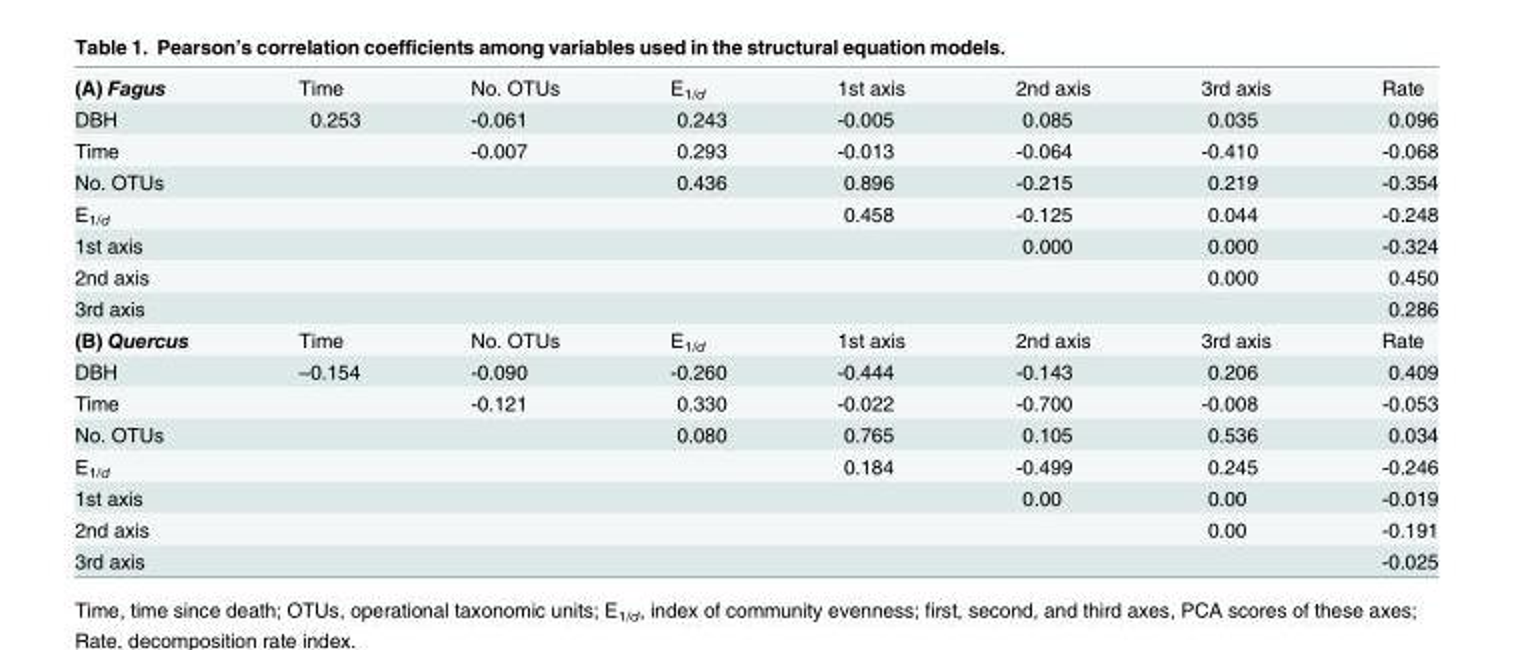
<table><tbody><tr><td>(A) Fagus</td><td>Time</td><td>No. OTUs</td><td>E<sub>1/d</sub></td><td>1st axis</td><td>2nd axis</td><td>3rd axis</td><td>Rate</td></tr><tr><td>DBH</td><td>0.253</td><td>-0.061</td><td>0.243</td><td>-0.005</td><td>0.085</td><td>0.035</td><td>0.096</td></tr><tr><td>Time</td><td></td><td>-0.007</td><td>0.293</td><td>-0.013</td><td>-0.064</td><td>-0.410</td><td>-0.068</td></tr><tr><td>No. OTUs</td><td></td><td></td><td>0.436</td><td>0.896</td><td>-0.215</td><td>0.219</td><td>-0.354</td></tr><tr><td>E<sub>1/d</sub></td><td></td><td></td><td></td><td>0.458</td><td>-0.125</td><td>0.044</td><td>-0.248</td></tr><tr><td>1st axis</td><td></td><td></td><td></td><td></td><td>0.000</td><td>0.000</td><td>-0.324</td></tr><tr><td>2nd axis</td><td></td><td></td><td></td><td></td><td></td><td>0.000</td><td>0.450</td></tr><tr><td>3rd axis</td><td></td><td></td><td></td><td></td><td></td><td></td><td>0.286</td></tr><tr><td>(B) Quercus</td><td>Time</td><td>No. OTUs</td><td>E<sub>1/d</sub></td><td>1st axis</td><td>2nd axis</td><td>3rd axis</td><td>Rate</td></tr><tr><td>DBH</td><td>–0.154</td><td>-0.090</td><td>-0.260</td><td>-0.444</td><td>-0.143</td><td>0.206</td><td>0.409</td></tr><tr><td>Time</td><td></td><td>-0.121</td><td>0.330</td><td>-0.022</td><td>-0.700</td><td>-0.008</td><td>-0.053</td></tr><tr><td>No. OTUs</td><td></td><td></td><td>0.080</td><td>0.765</td><td>0.105</td><td>0.536</td><td>0.034</td></tr><tr><td>E<sub>1/d</sub></td><td></td><td></td><td></td><td>0.184</td><td>-0.499</td><td>0.245</td><td>-0.246</td></tr><tr><td>1st axis</td><td></td><td></td><td></td><td></td><td>0.00</td><td>0.00</td><td>-0.019</td></tr><tr><td>2nd axis</td><td></td><td></td><td></td><td></td><td></td><td>0.00</td><td>-0.191</td></tr><tr><td>3rd axis</td><td></td><td></td><td></td><td></td><td></td><td></td><td>-0.025</td></tr></tbody></table>